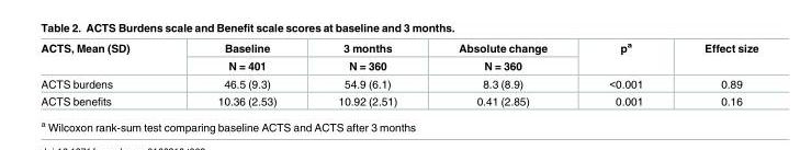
<table><thead><tr><td rowspan="2">ACTS, Mean (SD)</td><td rowspan="2">Baseline N = 401</td><td rowspan="2">3 months N = 360</td><td rowspan="2">Absolute change N = 360</td><td rowspan="2">p<sup>a</sup></td><td rowspan="2">Effect size</td></tr><tr></tr></thead><tbody><tr><td>ACTS burdens</td><td>46.5 (9.3)</td><td>54.9 (6.1)</td><td>8.3 (8.9)</td><td>&lt;0.001</td><td>0.89</td></tr><tr><td>ACTS benefits</td><td>10.36 (2.53)</td><td>10.92 (2.51)</td><td>0.41 (2.85)</td><td>0.001</td><td>0.16</td></tr></tbody></table>